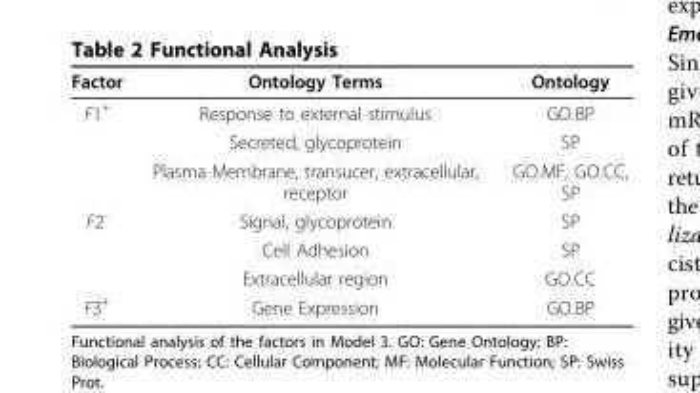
<table><thead><tr><td>Factor</td><td>Ontology Terms</td><td>Ontology</td></tr></thead><tbody><tr><td rowspan="3">F1<sup>+</sup></td><td>Response to external stimulus</td><td>GO<sub>-</sub>BP</td></tr><tr><td>Secreted, glycoprotein</td><td>SP</td></tr><tr><td>Plasma Membrane, transucer, extracellular, receptor</td><td>GO<sub>-</sub>MF, GO<sub>-</sub>CC, SP</td></tr><tr><td rowspan="3">F2<sup>-</sup></td><td>Signal, glycoprotein</td><td>SP</td></tr><tr><td>Cell Adhesion</td><td>SP</td></tr><tr><td>Extracellular region</td><td>GO<sub>-</sub>CC</td></tr><tr><td>F3<sup>+</sup></td><td>Gene Expression</td><td>GO<sub>-</sub>BP</td></tr></tbody></table>